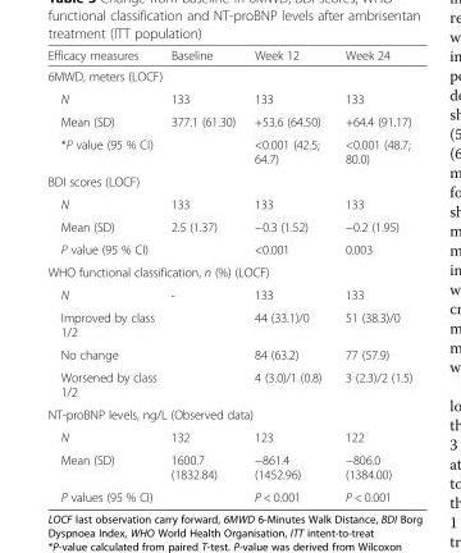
<table><thead><tr><td>Efficacy measures</td><td>Baseline</td><td>Week 12</td><td>Week 24</td></tr></thead><tbody><tr><td colspan="4">6MWD, meters (LOCF)</td></tr><tr><td>N</td><td>133</td><td>133</td><td>133</td></tr><tr><td>Mean (SD)</td><td>377.1 (61.30)</td><td>+53.6 (64.50)</td><td>+64.4 (91.17)</td></tr><tr><td>*P value (95 % CI)</td><td></td><td>&lt;0.001 (42.5; 64.7)</td><td>&lt;0.001 (48.7; 80.0)</td></tr><tr><td colspan="4">BDI scores (LOCF)</td></tr><tr><td>N</td><td>133</td><td>133</td><td>133</td></tr><tr><td>Mean (SD)</td><td>2.5 (1.37)</td><td>−0.3 (1.52)</td><td>−0.2 (1.95)</td></tr><tr><td>P value (95 % CI)</td><td></td><td>&lt;0.001</td><td>0.003</td></tr><tr><td colspan="4">WHO functional classification, n (%) (LOCF)</td></tr><tr><td>N</td><td>-</td><td>133</td><td>133</td></tr><tr><td>Improved by class 1/2</td><td></td><td>44 (33.1)/0</td><td>51 (38.3)/0</td></tr><tr><td>No change</td><td></td><td>84 (63.2)</td><td>77 (57.9)</td></tr><tr><td>Worsened by class 1/2</td><td></td><td>4 (3.0)/1 (0.8)</td><td>3 (2.3)/2 (1.5)</td></tr><tr><td colspan="4">NT-proBNP levels, ng/L (Observed data)</td></tr><tr><td>N</td><td>132</td><td>123</td><td>122</td></tr><tr><td>Mean (SD)</td><td>1600.7 (1832.84)</td><td>−861.4 (1452.96)</td><td>−806.0 (1384.00)</td></tr><tr><td>P values (95 % CI)</td><td></td><td>P &lt; 0.001</td><td>P &lt; 0.001</td></tr></tbody></table>